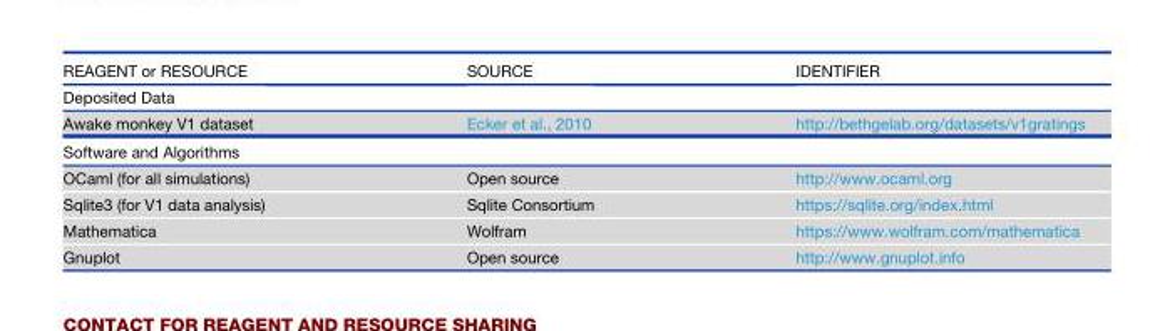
<table><thead><tr><td>REAGENT or RESOURCE</td><td>SOURCE</td><td>IDENTIFIER</td></tr></thead><tbody><tr><td colspan="3">Deposited Data</td></tr><tr><td>Awake monkey V1 dataset</td><td>Ecker et al., 2010</td><td>http://bethgelab.org/datasets/v1gratings</td></tr><tr><td colspan="3">Software and Algorithms</td></tr><tr><td>OCaml (for all simulations)</td><td>Open source</td><td>http://www.ocaml.org</td></tr><tr><td>Sqlite3 (for V1 data analysis)</td><td>Sqlite Consortium</td><td>https://sqlite.org/index.html</td></tr><tr><td>Mathematica</td><td>Wolfram</td><td>https://www.wolfram.com/mathematica</td></tr><tr><td>Gnuplot</td><td>Open source</td><td>http://www.gnuplot.info</td></tr></tbody></table>